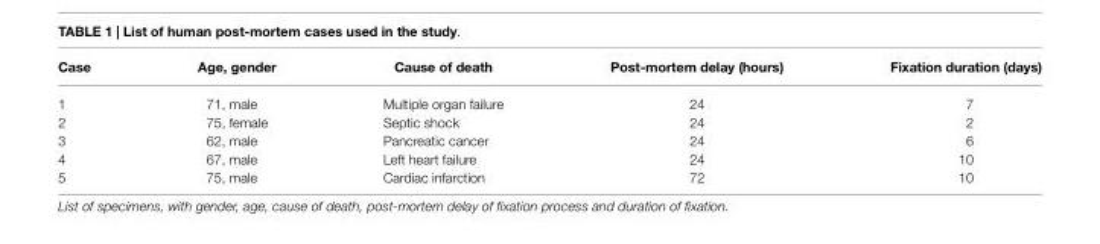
<table><thead><tr><td>Case</td><td>Age, gender</td><td>Cause of death</td><td>Post-mortem delay (hours)</td><td>Fixation duration (days)</td></tr></thead><tbody><tr><td>1</td><td>71, male</td><td>Multiple organ failure</td><td>24</td><td>7</td></tr><tr><td>2</td><td>75, female</td><td>Septic shock</td><td>24</td><td>2</td></tr><tr><td>3</td><td>62, male</td><td>Pancreatic cancer</td><td>24</td><td>6</td></tr><tr><td>4</td><td>67, male</td><td>Left heart failure</td><td>24</td><td>10</td></tr><tr><td>5</td><td>75, male</td><td>Cardiac infarction</td><td>72</td><td>10</td></tr></tbody></table>